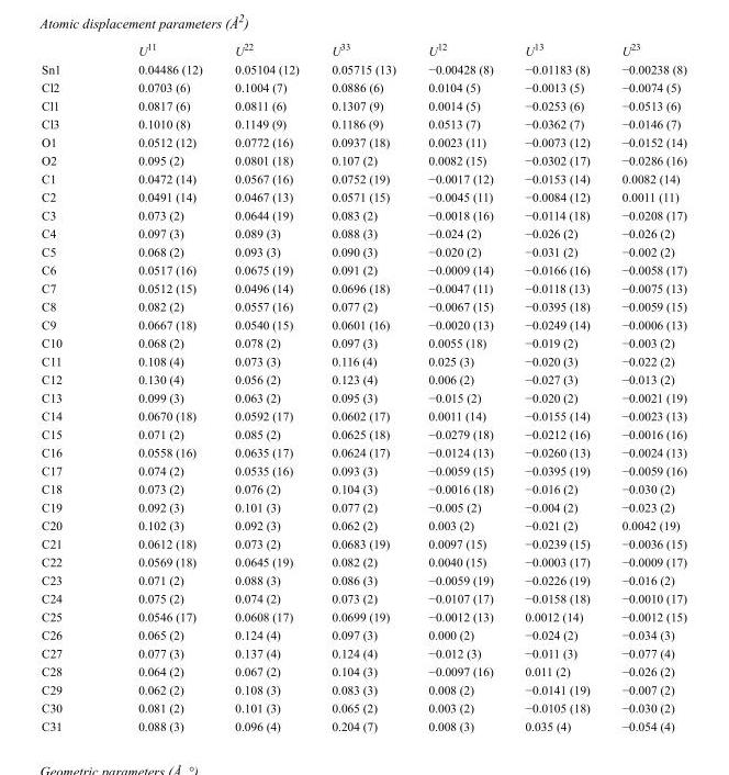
<table><thead><tr><td></td><td>U<sup>11</sup></td><td>U<sup>22</sup></td><td>U<sup>33</sup></td><td>U<sup>12</sup></td><td>U<sup>13</sup></td><td>U<sup>23</sup></td></tr></thead><tbody><tr><td>Sn1</td><td>0.04486 (12)</td><td>0.05104 (12)</td><td>0.05715 (13)</td><td>−0.00428 (8)</td><td>−0.01183 (8)</td><td>−0.00238 (8)</td></tr><tr><td>Cl2</td><td>0.0703 (6)</td><td>0.1004 (7)</td><td>0.0886 (6)</td><td>0.0104 (5)</td><td>−0.0013 (5)</td><td>−0.0074 (5)</td></tr><tr><td>Cl1</td><td>0.0817 (6)</td><td>0.0811 (6)</td><td>0.1307 (9)</td><td>0.0014 (5)</td><td>−0.0253 (6)</td><td>−0.0513 (6)</td></tr><tr><td>Cl3</td><td>0.1010 (8)</td><td>0.1149 (9)</td><td>0.1186 (9)</td><td>0.0513 (7)</td><td>−0.0362 (7)</td><td>−0.0146 (7)</td></tr><tr><td>O1</td><td>0.0512 (12)</td><td>0.0772 (16)</td><td>0.0937 (18)</td><td>0.0023 (11)</td><td>−0.0073 (12)</td><td>−0.0152 (14)</td></tr><tr><td>O2</td><td>0.095 (2)</td><td>0.0801 (18)</td><td>0.107 (2)</td><td>0.0082 (15)</td><td>−0.0302 (17)</td><td>−0.0286 (16)</td></tr><tr><td>C1</td><td>0.0472 (14)</td><td>0.0567 (16)</td><td>0.0752 (19)</td><td>−0.0017 (12)</td><td>−0.0153 (14)</td><td>0.0082 (14)</td></tr><tr><td>C2</td><td>0.0491 (14)</td><td>0.0467 (13)</td><td>0.0571 (15)</td><td>−0.0045 (11)</td><td>−0.0084 (12)</td><td>0.0011 (11)</td></tr><tr><td>C3</td><td>0.073 (2)</td><td>0.0644 (19)</td><td>0.083 (2)</td><td>−0.0018 (16)</td><td>−0.0114 (18)</td><td>−0.0208 (17)</td></tr><tr><td>C4</td><td>0.097 (3)</td><td>0.089 (3)</td><td>0.088 (3)</td><td>−0.024 (2)</td><td>−0.026 (2)</td><td>−0.026 (2)</td></tr><tr><td>C5</td><td>0.068 (2)</td><td>0.093 (3)</td><td>0.090 (3)</td><td>−0.020 (2)</td><td>−0.031 (2)</td><td>−0.002 (2)</td></tr><tr><td>C6</td><td>0.0517 (16)</td><td>0.0675 (19)</td><td>0.091 (2)</td><td>−0.0009 (14)</td><td>−0.0166 (16)</td><td>−0.0058 (17)</td></tr><tr><td>C7</td><td>0.0512 (15)</td><td>0.0496 (14)</td><td>0.0696 (18)</td><td>−0.0047 (11)</td><td>−0.0118 (13)</td><td>−0.0075 (13)</td></tr><tr><td>C8</td><td>0.082 (2)</td><td>0.0557 (16)</td><td>0.077 (2)</td><td>−0.0067 (15)</td><td>−0.0395 (18)</td><td>−0.0059 (15)</td></tr><tr><td>C9</td><td>0.0667 (18)</td><td>0.0540 (15)</td><td>0.0601 (16)</td><td>−0.0020 (13)</td><td>−0.0249 (14)</td><td>−0.0006 (13)</td></tr><tr><td>C10</td><td>0.068 (2)</td><td>0.078 (2)</td><td>0.097 (3)</td><td>0.0055 (18)</td><td>−0.019 (2)</td><td>−0.003 (2)</td></tr><tr><td>C11</td><td>0.108 (4)</td><td>0.073 (3)</td><td>0.116 (4)</td><td>0.025 (3)</td><td>−0.020 (3)</td><td>−0.022 (2)</td></tr><tr><td>C12</td><td>0.130 (4)</td><td>0.056 (2)</td><td>0.123 (4)</td><td>0.006 (2)</td><td>−0.027 (3)</td><td>−0.013 (2)</td></tr><tr><td>C13</td><td>0.099 (3)</td><td>0.063 (2)</td><td>0.095 (3)</td><td>−0.015 (2)</td><td>−0.020 (2)</td><td>−0.0021 (19)</td></tr><tr><td>C14</td><td>0.0670 (18)</td><td>0.0592 (17)</td><td>0.0602 (17)</td><td>0.0011 (14)</td><td>−0.0155 (14)</td><td>−0.0023 (13)</td></tr><tr><td>C15</td><td>0.071 (2)</td><td>0.085 (2)</td><td>0.0625 (18)</td><td>−0.0279 (18)</td><td>−0.0212 (16)</td><td>−0.0016 (16)</td></tr><tr><td>C16</td><td>0.0558 (16)</td><td>0.0635 (17)</td><td>0.0624 (17)</td><td>−0.0124 (13)</td><td>−0.0260 (13)</td><td>−0.0024 (13)</td></tr><tr><td>C17</td><td>0.074 (2)</td><td>0.0535 (16)</td><td>0.093 (3)</td><td>−0.0059 (15)</td><td>−0.0395 (19)</td><td>−0.0059 (16)</td></tr><tr><td>C18</td><td>0.073 (2)</td><td>0.076 (2)</td><td>0.104 (3)</td><td>−0.0016 (18)</td><td>−0.016 (2)</td><td>−0.030 (2)</td></tr><tr><td>C19</td><td>0.092 (3)</td><td>0.101 (3)</td><td>0.077 (2)</td><td>−0.005 (2)</td><td>−0.004 (2)</td><td>−0.023 (2)</td></tr><tr><td>C20</td><td>0.102 (3)</td><td>0.092 (3)</td><td>0.062 (2)</td><td>0.003 (2)</td><td>−0.021 (2)</td><td>0.0042 (19)</td></tr><tr><td>C21</td><td>0.0612 (18)</td><td>0.073 (2)</td><td>0.0683 (19)</td><td>0.0097 (15)</td><td>−0.0239 (15)</td><td>−0.0036 (15)</td></tr><tr><td>C22</td><td>0.0569 (18)</td><td>0.0645 (19)</td><td>0.082 (2)</td><td>0.0040 (15)</td><td>−0.0003 (17)</td><td>−0.0009 (17)</td></tr><tr><td>C23</td><td>0.071 (2)</td><td>0.088 (3)</td><td>0.086 (3)</td><td>−0.0059 (19)</td><td>−0.0226 (19)</td><td>−0.016 (2)</td></tr><tr><td>C24</td><td>0.075 (2)</td><td>0.074 (2)</td><td>0.073 (2)</td><td>−0.0107 (17)</td><td>−0.0158 (18)</td><td>−0.0010 (17)</td></tr><tr><td>C25</td><td>0.0546 (17)</td><td>0.0608 (17)</td><td>0.0699 (19)</td><td>−0.0012 (13)</td><td>0.0012 (14)</td><td>−0.0012 (15)</td></tr><tr><td>C26</td><td>0.065 (2)</td><td>0.124 (4)</td><td>0.097 (3)</td><td>0.000 (2)</td><td>−0.024 (2)</td><td>−0.034 (3)</td></tr><tr><td>C27</td><td>0.077 (3)</td><td>0.137 (4)</td><td>0.124 (4)</td><td>−0.012 (3)</td><td>−0.011 (3)</td><td>−0.077 (4)</td></tr><tr><td>C28</td><td>0.064 (2)</td><td>0.067 (2)</td><td>0.104 (3)</td><td>−0.0097 (16)</td><td>0.011 (2)</td><td>−0.026 (2)</td></tr><tr><td>C29</td><td>0.062 (2)</td><td>0.108 (3)</td><td>0.083 (3)</td><td>0.008 (2)</td><td>−0.0141 (19)</td><td>−0.007 (2)</td></tr><tr><td>C30</td><td>0.081 (2)</td><td>0.101 (3)</td><td>0.065 (2)</td><td>0.003 (2)</td><td>−0.0105 (18)</td><td>−0.030 (2)</td></tr><tr><td>C31</td><td>0.088 (3)</td><td>0.096 (4)</td><td>0.204 (7)</td><td>0.008 (3)</td><td>0.035 (4)</td><td>−0.054 (4)</td></tr></tbody></table>